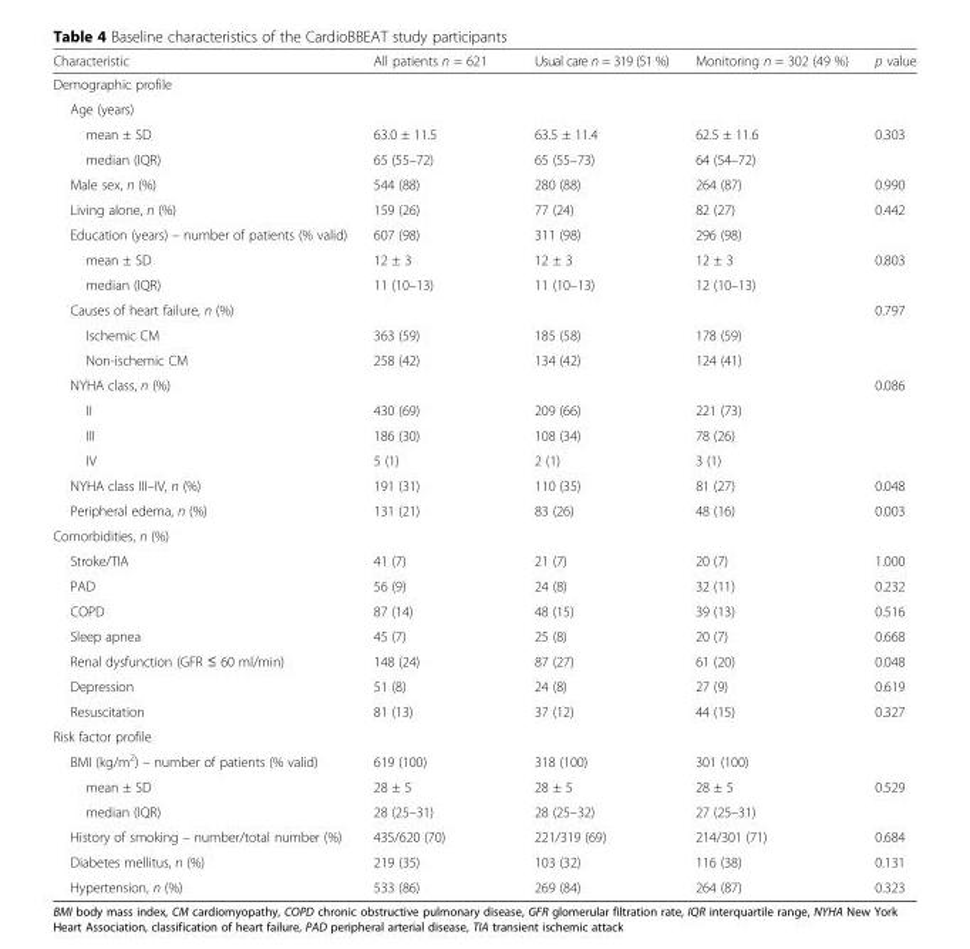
<table><thead><tr><td>Characteristic</td><td>All patients n = 621</td><td>Usual care n = 319 (51 %)</td><td>Monitoring n = 302 (49 %)</td><td>p value</td></tr></thead><tbody><tr><td colspan="5">Demographic profile</td></tr><tr><td colspan="5">Age (years)</td></tr><tr><td>mean ± SD</td><td>63.0 ± 11.5</td><td>63.5 ± 11.4</td><td>62.5 ± 11.6</td><td>0.303</td></tr><tr><td>median (IQR)</td><td>65 (55–72)</td><td>65 (55–73)</td><td>64 (54–72)</td><td></td></tr><tr><td>Male sex, n (%)</td><td>544 (88)</td><td>280 (88)</td><td>264 (87)</td><td>0.990</td></tr><tr><td>Living alone, n (%)</td><td>159 (26)</td><td>77 (24)</td><td>82 (27)</td><td>0.442</td></tr><tr><td>Education (years) – number of patients (% valid)</td><td>607 (98)</td><td>311 (98)</td><td>296 (98)</td><td></td></tr><tr><td>mean ± SD</td><td>12 ± 3</td><td>12 ± 3</td><td>12 ± 3</td><td>0.803</td></tr><tr><td>median (IQR)</td><td>11 (10–13)</td><td>11 (10–13)</td><td>12 (10–13)</td><td></td></tr><tr><td>Causes of heart failure, n (%)</td><td></td><td></td><td></td><td>0.797</td></tr><tr><td>Ischemic CM</td><td>363 (59)</td><td>185 (58)</td><td>178 (59)</td><td></td></tr><tr><td>Non-ischemic CM</td><td>258 (42)</td><td>134 (42)</td><td>124 (41)</td><td></td></tr><tr><td>NYHA class, n (%)</td><td></td><td></td><td></td><td>0.086</td></tr><tr><td>II</td><td>430 (69)</td><td>209 (66)</td><td>221 (73)</td><td></td></tr><tr><td>III</td><td>186 (30)</td><td>108 (34)</td><td>78 (26)</td><td></td></tr><tr><td>IV</td><td>5 (1)</td><td>2 (1)</td><td>3 (1)</td><td></td></tr><tr><td>NYHA class III–IV, n (%)</td><td>191 (31)</td><td>110 (35)</td><td>81 (27)</td><td>0.048</td></tr><tr><td>Peripheral edema, n (%)</td><td>131 (21)</td><td>83 (26)</td><td>48 (16)</td><td>0.003</td></tr><tr><td colspan="5">Comorbidities, n (%)</td></tr><tr><td>Stroke/TIA</td><td>41 (7)</td><td>21 (7)</td><td>20 (7)</td><td>1.000</td></tr><tr><td>PAD</td><td>56 (9)</td><td>24 (8)</td><td>32 (11)</td><td>0.232</td></tr><tr><td>COPD</td><td>87 (14)</td><td>48 (15)</td><td>39 (13)</td><td>0.516</td></tr><tr><td>Sleep apnea</td><td>45 (7)</td><td>25 (8)</td><td>20 (7)</td><td>0.668</td></tr><tr><td>Renal dysfunction (GFR ≤ 60 ml/min)</td><td>148 (24)</td><td>87 (27)</td><td>61 (20)</td><td>0.048</td></tr><tr><td>Depression</td><td>51 (8)</td><td>24 (8)</td><td>27 (9)</td><td>0.619</td></tr><tr><td>Resuscitation</td><td>81 (13)</td><td>37 (12)</td><td>44 (15)</td><td>0.327</td></tr><tr><td colspan="5">Risk factor profile</td></tr><tr><td>BMI (kg/m<sup>2</sup>) – number of patients (% valid)</td><td>619 (100)</td><td>318 (100)</td><td>301 (100)</td><td></td></tr><tr><td>mean ± SD</td><td>28 ± 5</td><td>28 ± 5</td><td>28 ± 5</td><td>0.529</td></tr><tr><td>median (IQR)</td><td>28 (25–31)</td><td>28 (25–32)</td><td>27 (25–31)</td><td></td></tr><tr><td>History of smoking – number/total number (%)</td><td>435/620 (70)</td><td>221/319 (69)</td><td>214/301 (71)</td><td>0.684</td></tr><tr><td>Diabetes mellitus, n (%)</td><td>219 (35)</td><td>103 (32)</td><td>116 (38)</td><td>0.131</td></tr><tr><td>Hypertension, n (%)</td><td>533 (86)</td><td>269 (84)</td><td>264 (87)</td><td>0.323</td></tr></tbody></table>